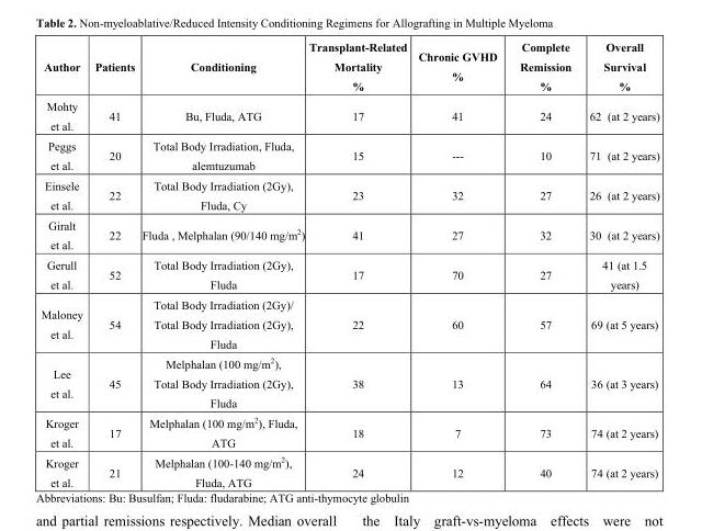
<table><thead><tr><td>Author</td><td>Patients</td><td>Conditioning</td><td>Transplant-Related Mortality %</td><td>Chronic GVHD %</td><td>Complete Remission %</td><td>Overall Survival %</td></tr></thead><tbody><tr><td>Mohty et al.</td><td>41</td><td>Bu, Fluda, ATG</td><td>17</td><td>41</td><td>24</td><td>62 (at 2 years)</td></tr><tr><td>Peggs et al.</td><td>20</td><td>Total Body Irradiation, Fluda, alemtuzumab</td><td>15</td><td>---</td><td>10</td><td>71 (at 2 years)</td></tr><tr><td>Einsele et al.</td><td>22</td><td>Total Body Irradiation (2Gy), Fluda, Cy</td><td>23</td><td>32</td><td>27</td><td>26 (at 2 years)</td></tr><tr><td>Giralt et al.</td><td>22</td><td>Fluda , Melphalan (90/140 mg/m<sup>2</sup>)</td><td>41</td><td>27</td><td>32</td><td>30 (at 2 years)</td></tr><tr><td>Gerull et al.</td><td>52</td><td>Total Body Irradiation (2Gy), Fluda</td><td>17</td><td>70</td><td>27</td><td>41 (at 1.5 years)</td></tr><tr><td>Maloney et al.</td><td>54</td><td>Total Body Irradiation (2Gy)/ Total Body Irradiation (2Gy), Fluda</td><td>22</td><td>60</td><td>57</td><td>69 (at 5 years)</td></tr><tr><td>Lee et al.</td><td>45</td><td>Melphalan (100 mg/m<sup>2</sup>), Total Body Irradiation (2Gy), Fluda</td><td>38</td><td>13</td><td>64</td><td>36 (at 3 years)</td></tr><tr><td>Kroger et al.</td><td>17</td><td>Melphalan (100 mg/m<sup>2</sup>), Fluda, ATG</td><td>18</td><td>7</td><td>73</td><td>74 (at 2 years)</td></tr><tr><td>Kroger et al.</td><td>21</td><td>Melphalan (100-140 mg/m<sup>2</sup>), Fluda, ATG</td><td>24</td><td>12</td><td>40</td><td>74 (at 2 years)</td></tr></tbody></table>